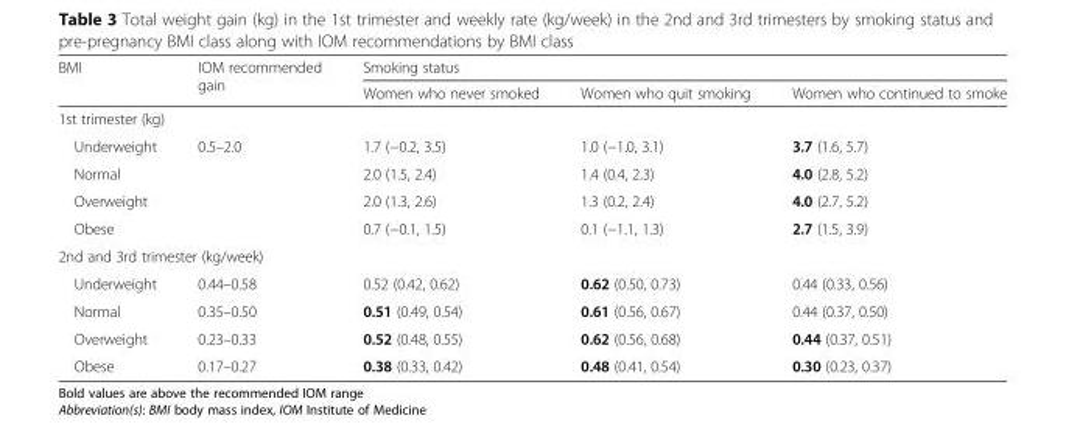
<table><thead><tr><td rowspan="2">BMI</td><td rowspan="2">IOM recommended gain</td><td colspan="3">Smoking status</td></tr><tr><td>Women who never smoked</td><td>Women who quit smoking</td><td>Women who continued to smoke</td></tr></thead><tbody><tr><td colspan="5">1st trimester (kg)</td></tr><tr><td>Underweight</td><td rowspan="4">0.5–2.0</td><td>1.7 (−0.2, 3.5)</td><td>1.0 (−1.0, 3.1)</td><td>3.7 (1.6, 5.7)</td></tr><tr><td>Normal</td><td>2.0 (1.5, 2.4)</td><td>1.4 (0.4, 2.3)</td><td>4.0 (2.8, 5.2)</td></tr><tr><td>Overweight</td><td>2.0 (1.3, 2.6)</td><td>1.3 (0.2, 2.4)</td><td>4.0 (2.7, 5.2)</td></tr><tr><td>Obese</td><td>0.7 (−0.1, 1.5)</td><td>0.1 (−1.1, 1.3)</td><td>2.7 (1.5, 3.9)</td></tr><tr><td colspan="5">2nd and 3rd trimester (kg/week)</td></tr><tr><td>Underweight</td><td>0.44–0.58</td><td>0.52 (0.42, 0.62)</td><td>0.62 (0.50, 0.73)</td><td>0.44 (0.33, 0.56)</td></tr><tr><td>Normal</td><td>0.35–0.50</td><td>0.51 (0.49, 0.54)</td><td>0.61 (0.56, 0.67)</td><td>0.44 (0.37, 0.50)</td></tr><tr><td>Overweight</td><td>0.23–0.33</td><td>0.52 (0.48, 0.55)</td><td>0.62 (0.56, 0.68)</td><td>0.44 (0.37, 0.51)</td></tr><tr><td>Obese</td><td>0.17–0.27</td><td>0.38 (0.33, 0.42)</td><td>0.48 (0.41, 0.54)</td><td>0.30 (0.23, 0.37)</td></tr></tbody></table>